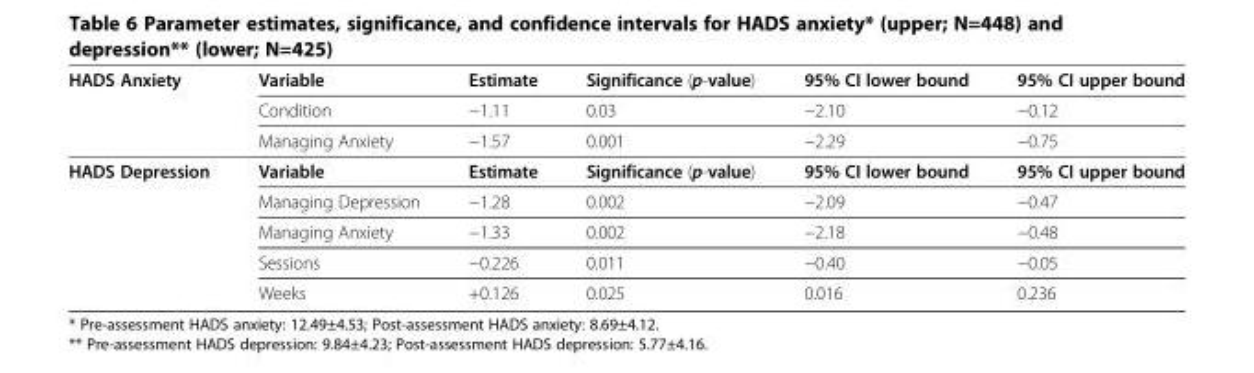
<table><thead><tr><td rowspan="3">HADS Anxiety</td><td rowspan="3">Variable Condition Managing Anxiety</td><td rowspan="3">Estimate −1.11 −1.57</td><td rowspan="3">Significance (p-value) 0.03 0.001</td><td rowspan="3">95% CI lower bound −2.10 −2.29</td><td rowspan="3">95% CI upper bound −0.12 −0.75</td></tr><tr></tr><tr></tr></thead><tbody><tr><td rowspan="5">HADS Depression</td><td>Variable</td><td>Estimate</td><td>Significance (p-value)</td><td>95% CI lower bound</td><td>95% CI upper bound</td></tr><tr><td>Managing Depression</td><td>−1.28</td><td>0.002</td><td>−2.09</td><td>−0.47</td></tr><tr><td>Managing Anxiety</td><td>−1.33</td><td>0.002</td><td>−2.18</td><td>−0.48</td></tr><tr><td>Sessions</td><td>−0.226</td><td>0.011</td><td>−0.40</td><td>−0.05</td></tr><tr><td>Weeks</td><td>+0.126</td><td>0.025</td><td>0.016</td><td>0.236</td></tr></tbody></table>